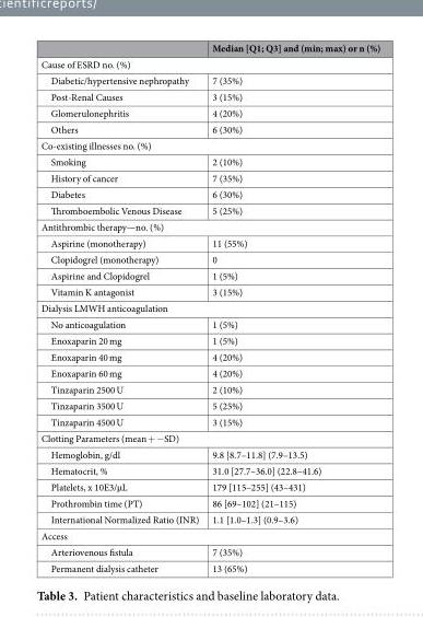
<table><thead><tr><td></td><td>Median [Q1; Q3] and (min; max) or n (%)</td></tr></thead><tbody><tr><td colspan="2">Cause of ESRD no. (%)</td></tr><tr><td>Diabetic/hypertensive nephropathy</td><td>7 (35%)</td></tr><tr><td>Post-Renal Causes</td><td>3 (15%)</td></tr><tr><td>Glomerulonephritis</td><td>4 (20%)</td></tr><tr><td>Others</td><td>6 (30%)</td></tr><tr><td colspan="2">Co-existing illnesses no. (%)</td></tr><tr><td>Smoking</td><td>2 (10%)</td></tr><tr><td>History of cancer</td><td>7 (35%)</td></tr><tr><td>Diabetes</td><td>6 (30%)</td></tr><tr><td>Thromboembolic Venous Disease</td><td>5 (25%)</td></tr><tr><td colspan="2">Antithrombic therapy—no. (%)</td></tr><tr><td>Aspirine (monotherapy)</td><td>11 (55%)</td></tr><tr><td>Clopidogrel (monotherapy)</td><td>0</td></tr><tr><td>Aspirine and Clopidogrel</td><td>1 (5%)</td></tr><tr><td>Vitamin K antagonist</td><td>3 (15%)</td></tr><tr><td colspan="2">Dialysis LMWH anticoagulation</td></tr><tr><td>No anticoagulation</td><td>1 (5%)</td></tr><tr><td>Enoxaparin 20 mg</td><td>1 (5%)</td></tr><tr><td>Enoxaparin 40 mg</td><td>4 (20%)</td></tr><tr><td>Enoxaparin 60 mg</td><td>4 (20%)</td></tr><tr><td>Tinzaparin 2500 U</td><td>2 (10%)</td></tr><tr><td>Tinzaparin 3500 U</td><td>5 (25%)</td></tr><tr><td>Tinzaparin 4500 U</td><td>3 (15%)</td></tr><tr><td colspan="2">Clotting Parameters (mean + −SD)</td></tr><tr><td>Hemoglobin, g/dl</td><td>9.8 [8.7–11.8] (7.9–13.5)</td></tr><tr><td>Hematocrit, %</td><td>31.0 [27.7–36.0] (22.8–41.6)</td></tr><tr><td>Platelets, x 10E3/µL</td><td>179 [115–255] (43–431)</td></tr><tr><td>Prothrombin time (PT)</td><td>86 [69–102] (21–115)</td></tr><tr><td>International Normalized Ratio (INR)</td><td>1.1 [1.0–1.3] (0.9–3.6)</td></tr><tr><td colspan="2">Access</td></tr><tr><td>Arteriovenous fistula</td><td>7 (35%)</td></tr><tr><td>Permanent dialysis catheter</td><td>13 (65%)</td></tr></tbody></table>